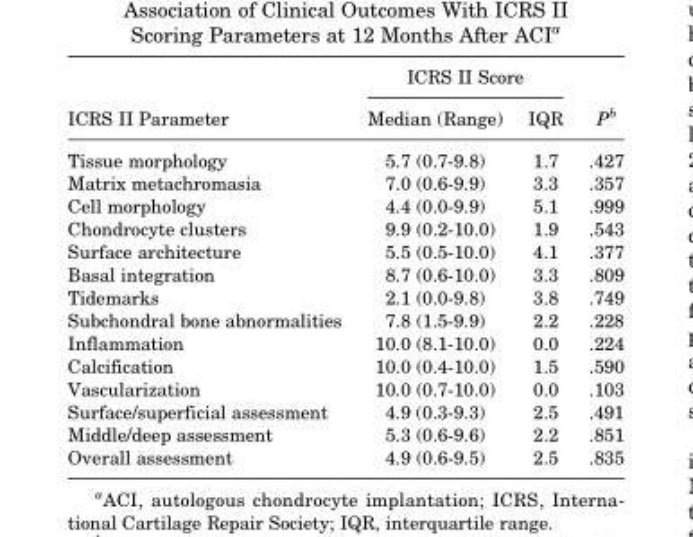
<table><thead><tr><td rowspan="2">ICRS II Parameter</td><td colspan="2">ICRS II Score</td><td rowspan="2">P<sup>b</sup></td></tr><tr><td>Median (Range)</td><td>IQR</td></tr></thead><tbody><tr><td>Tissue morphology</td><td>5.7 (0.7-9.8)</td><td>1.7</td><td>.427</td></tr><tr><td>Matrix metachromasia</td><td>7.0 (0.6-9.9)</td><td>3.3</td><td>.357</td></tr><tr><td>Cell morphology</td><td>4.4 (0.0-9.9)</td><td>5.1</td><td>.999</td></tr><tr><td>Chondrocyte clusters</td><td>9.9 (0.2-10.0)</td><td>1.9</td><td>.543</td></tr><tr><td>Surface architecture</td><td>5.5 (0.5-10.0)</td><td>4.1</td><td>.377</td></tr><tr><td>Basal integration</td><td>8.7 (0.6-10.0)</td><td>3.3</td><td>.809</td></tr><tr><td>Tidemarks</td><td>2.1 (0.0-9.8)</td><td>3.8</td><td>.749</td></tr><tr><td>Subchondral bone abnormalities</td><td>7.8 (1.5-9.9)</td><td>2.2</td><td>.228</td></tr><tr><td>Inflammation</td><td>10.0 (8.1-10.0)</td><td>0.0</td><td>.224</td></tr><tr><td>Calcification</td><td>10.0 (0.4-10.0)</td><td>1.5</td><td>.590</td></tr><tr><td>Vascularization</td><td>10.0 (0.7-10.0)</td><td>0.0</td><td>.103</td></tr><tr><td>Surface/superficial assessment</td><td>4.9 (0.3-9.3)</td><td>2.5</td><td>.491</td></tr><tr><td>Middle/deep assessment</td><td>5.3 (0.6-9.6)</td><td>2.2</td><td>.851</td></tr><tr><td>Overall assessment</td><td>4.9 (0.6-9.5)</td><td>2.5</td><td>.835</td></tr></tbody></table>